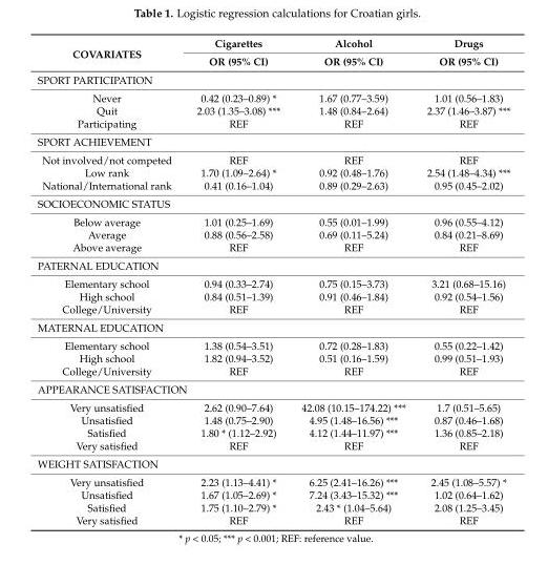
<table><thead><tr><td rowspan="2">COVARIATES</td><td rowspan="2">Cigarettes OR (95% CI)</td><td rowspan="2">Alcohol OR (95% CI)</td><td rowspan="2">Drugs OR (95% CI)</td></tr><tr></tr></thead><tbody><tr><td colspan="4">SPORT PARTICIPATION</td></tr><tr><td>Never</td><td>0.42 (0.23–0.89) *</td><td>1.67 (0.77–3.59)</td><td>1.01 (0.56–1.83)</td></tr><tr><td>Quit</td><td>2.03 (1.35–3.08) ***</td><td>1.48 (0.84–2.64)</td><td>2.37 (1.46–3.87) ***</td></tr><tr><td>Participating</td><td>REF</td><td>REF</td><td>REF</td></tr><tr><td colspan="4">SPORT ACHIEVEMENT</td></tr><tr><td>Not involved/not competed</td><td>REF</td><td>REF</td><td>REF</td></tr><tr><td>Low rank</td><td>1.70 (1.09–2.64) *</td><td>0.92 (0.48–1.76)</td><td>2.54 (1.48–4.34) ***</td></tr><tr><td>National/International rank</td><td>0.41 (0.16–1.04)</td><td>0.89 (0.29–2.63)</td><td>0.95 (0.45–2.02)</td></tr><tr><td colspan="4">SOCIOECONOMIC STATUS</td></tr><tr><td>Below average</td><td>1.01 (0.25–1.69)</td><td>0.55 (0.01–1.99)</td><td>0.96 (0.55–4.12)</td></tr><tr><td>Average</td><td>0.88 (0.56–2.58)</td><td>0.69 (0.11–5.24)</td><td>0.84 (0.21–8.69)</td></tr><tr><td>Above average</td><td>REF</td><td>REF</td><td>REF</td></tr><tr><td colspan="4">PATERNAL EDUCATION</td></tr><tr><td>Elementary school</td><td>0.94 (0.33–2.74)</td><td>0.75 (0.15–3.73)</td><td>3.21 (0.68–15.16)</td></tr><tr><td>High school</td><td>0.84 (0.51–1.39)</td><td>0.91 (0.46–1.84)</td><td>0.92 (0.54–1.56)</td></tr><tr><td>College/University</td><td>REF</td><td>REF</td><td>REF</td></tr><tr><td colspan="4">MATERNAL EDUCATION</td></tr><tr><td>Elementary school</td><td>1.38 (0.54–3.51)</td><td>0.72 (0.28–1.83)</td><td>0.55 (0.22–1.42)</td></tr><tr><td>High school</td><td>1.82 (0.94–3.52)</td><td>0.51 (0.16–1.59)</td><td>0.99 (0.51–1.93)</td></tr><tr><td>College/University</td><td>REF</td><td>REF</td><td>REF</td></tr><tr><td colspan="4">APPEARANCE SATISFACTION</td></tr><tr><td>Very unsatisfied</td><td>2.62 (0.90–7.64)</td><td>42.08 (10.15–174.22) ***</td><td>1.7 (0.51–5.65)</td></tr><tr><td>Unsatisfied</td><td>1.48 (0.75–2.90)</td><td>4.95 (1.48–16.56) ***</td><td>0.87 (0.46–1.68)</td></tr><tr><td>Satisfied</td><td>1.80 * (1.12–2.92)</td><td>4.12 (1.44–11.97) ***</td><td>1.36 (0.85–2.18)</td></tr><tr><td>Very satisfied</td><td>REF</td><td>REF</td><td>REF</td></tr><tr><td colspan="4">WEIGHT SATISFACTION</td></tr><tr><td>Very unsatisfied</td><td>2.23 (1.13–4.41) *</td><td>6.25 (2.41–16.26) ***</td><td>2.45 (1.08–5.57) *</td></tr><tr><td>Unsatisfied</td><td>1.67 (1.05–2.69) *</td><td>7.24 (3.43–15.32) ***</td><td>1.02 (0.64–1.62)</td></tr><tr><td>Satisfied</td><td>1.75 (1.10–2.79) *</td><td>2.43 * (1.04–5.64)</td><td>2.08 (1.25–3.45)</td></tr><tr><td>Very satisfied</td><td>REF</td><td>REF</td><td>REF</td></tr></tbody></table>